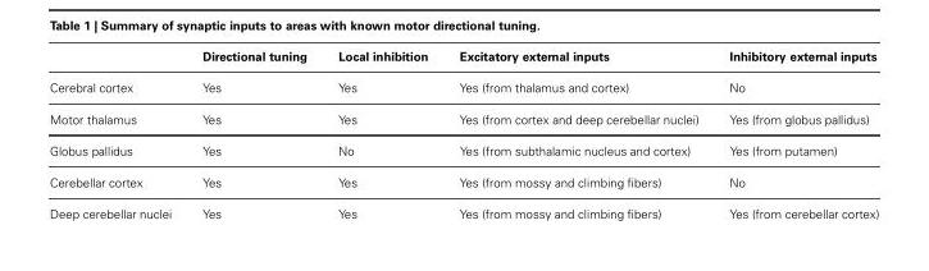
<table><thead><tr><td></td><td>Directional tuning</td><td>Local inhibition</td><td>Excitatory external inputs</td><td>Inhibitory external inputs</td></tr></thead><tbody><tr><td>Cerebral cortex</td><td>Yes</td><td>Yes</td><td>Yes (from thalamus and cortex)</td><td>No</td></tr><tr><td>Motor thalamus</td><td>Yes</td><td>Yes</td><td>Yes (from cortex and deep cerebellar nuclei)</td><td>Yes (from globus pallidus)</td></tr><tr><td>Globus pallidus</td><td>Yes</td><td>No</td><td>Yes (from subthalamic nucleus and cortex)</td><td>Yes (from putamen)</td></tr><tr><td>Cerebellar cortex</td><td>Yes</td><td>Yes</td><td>Yes (from mossy and climbing fibers)</td><td>No</td></tr><tr><td>Deep cerebellar nuclei</td><td>Yes</td><td>Yes</td><td>Yes (from mossy and climbing fibers)</td><td>Yes (from cerebellar cortex)</td></tr></tbody></table>